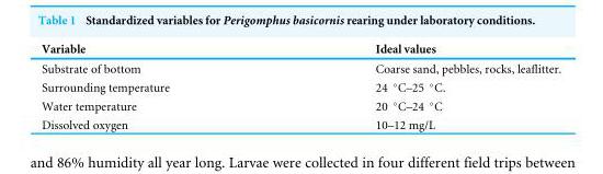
<table><thead><tr><td>Variable</td><td>Ideal values</td></tr></thead><tbody><tr><td>Substrate of bottom</td><td>Coarse sand, pebbles, rocks, leaflitter.</td></tr><tr><td>Surrounding temperature</td><td>24 ◦C–25 ◦C.</td></tr><tr><td>Water temperature</td><td>20 ◦C–24 ◦C</td></tr><tr><td>Dissolved oxygen</td><td>10–12 mg/L</td></tr></tbody></table>